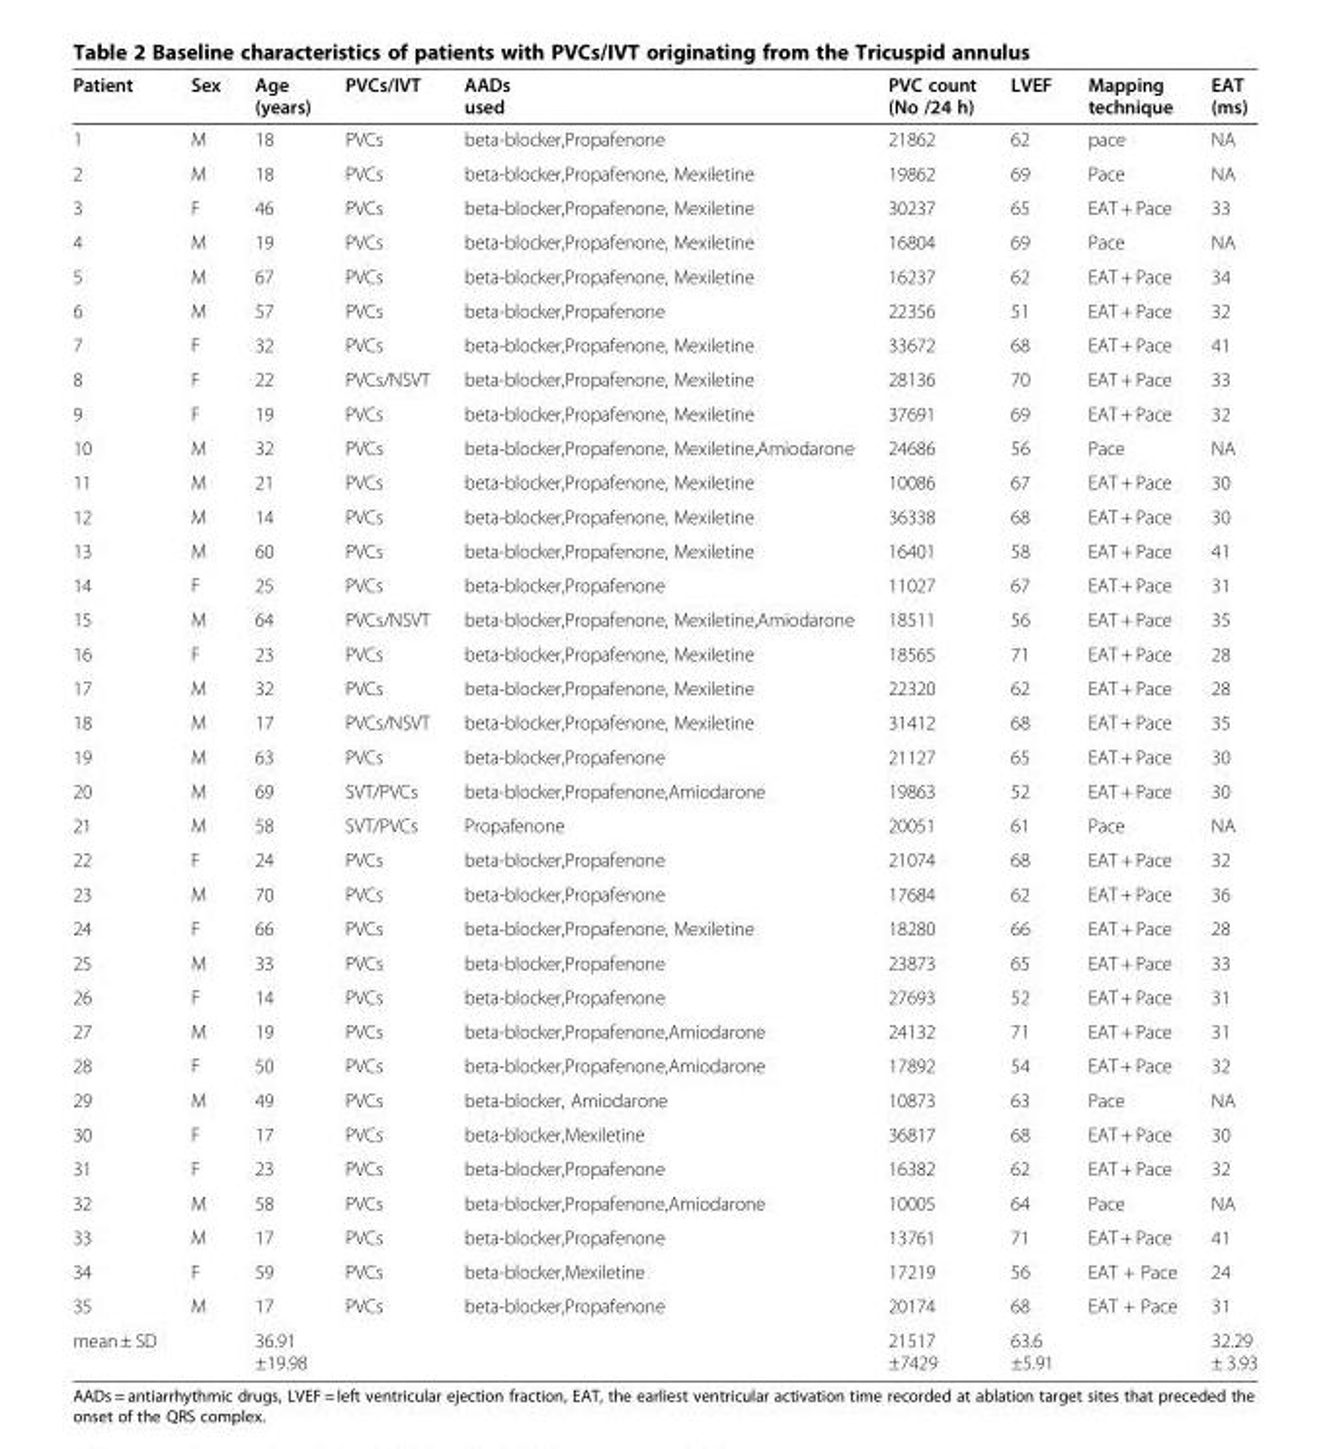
<table><thead><tr><td>Patient</td><td>Sex</td><td>Age (years)</td><td>PVCs/IVT</td><td>AADs used</td><td>PVC count (No /24 h)</td><td>LVEF</td><td>Mapping technique</td><td>EAT (ms)</td></tr></thead><tbody><tr><td>1</td><td>M</td><td>18</td><td>PVCs</td><td>beta-blocker,Propafenone</td><td>21862</td><td>62</td><td>pace</td><td>NA</td></tr><tr><td>2</td><td>M</td><td>18</td><td>PVCs</td><td>beta-blocker,Propafenone, Mexiletine</td><td>19862</td><td>69</td><td>Pace</td><td>NA</td></tr><tr><td>3</td><td>F</td><td>46</td><td>PVCs</td><td>beta-blocker,Propafenone, Mexiletine</td><td>30237</td><td>65</td><td>EAT + Pace</td><td>33</td></tr><tr><td>4</td><td>M</td><td>19</td><td>PVCs</td><td>beta-blocker,Propafenone, Mexiletine</td><td>16804</td><td>69</td><td>Pace</td><td>NA</td></tr><tr><td>5</td><td>M</td><td>67</td><td>PVCs</td><td>beta-blocker,Propafenone, Mexiletine</td><td>16237</td><td>62</td><td>EAT + Pace</td><td>34</td></tr><tr><td>6</td><td>M</td><td>57</td><td>PVCs</td><td>beta-blocker,Propafenone</td><td>22356</td><td>51</td><td>EAT + Pace</td><td>32</td></tr><tr><td>7</td><td>F</td><td>32</td><td>PVCs</td><td>beta-blocker,Propafenone, Mexiletine</td><td>33672</td><td>68</td><td>EAT + Pace</td><td>41</td></tr><tr><td>8</td><td>F</td><td>22</td><td>PVCs/NSVT</td><td>beta-blocker,Propafenone, Mexiletine</td><td>28136</td><td>70</td><td>EAT + Pace</td><td>33</td></tr><tr><td>9</td><td>F</td><td>19</td><td>PVCs</td><td>beta-blocker,Propafenone, Mexiletine</td><td>37691</td><td>69</td><td>EAT + Pace</td><td>32</td></tr><tr><td>10</td><td>M</td><td>32</td><td>PVCs</td><td>beta-blocker,Propafenone, Mexiletine,Amiodarone</td><td>24686</td><td>56</td><td>Pace</td><td>NA</td></tr><tr><td>11</td><td>M</td><td>21</td><td>PVCs</td><td>beta-blocker,Propafenone, Mexiletine</td><td>10086</td><td>67</td><td>EAT + Pace</td><td>30</td></tr><tr><td>12</td><td>M</td><td>14</td><td>PVCs</td><td>beta-blocker,Propafenone, Mexiletine</td><td>36338</td><td>68</td><td>EAT + Pace</td><td>30</td></tr><tr><td>13</td><td>M</td><td>60</td><td>PVCs</td><td>beta-blocker,Propafenone, Mexiletine</td><td>16401</td><td>58</td><td>EAT + Pace</td><td>41</td></tr><tr><td>14</td><td>F</td><td>25</td><td>PVCs</td><td>beta-blocker,Propafenone</td><td>11027</td><td>67</td><td>EAT + Pace</td><td>31</td></tr><tr><td>15</td><td>M</td><td>64</td><td>PVCs/NSVT</td><td>beta-blocker,Propafenone, Mexiletine,Amiodarone</td><td>18511</td><td>56</td><td>EAT + Pace</td><td>35</td></tr><tr><td>16</td><td>F</td><td>23</td><td>PVCs</td><td>beta-blocker,Propafenone, Mexiletine</td><td>18565</td><td>71</td><td>EAT + Pace</td><td>28</td></tr><tr><td>17</td><td>M</td><td>32</td><td>PVCs</td><td>beta-blocker,Propafenone, Mexiletine</td><td>22320</td><td>62</td><td>EAT + Pace</td><td>28</td></tr><tr><td>18</td><td>M</td><td>17</td><td>PVCs/NSVT</td><td>beta-blocker,Propafenone, Mexiletine</td><td>31412</td><td>68</td><td>EAT + Pace</td><td>35</td></tr><tr><td>19</td><td>M</td><td>63</td><td>PVCs</td><td>beta-blocker,Propafenone</td><td>21127</td><td>65</td><td>EAT + Pace</td><td>30</td></tr><tr><td>20</td><td>M</td><td>69</td><td>SVT/PVCs</td><td>beta-blocker,Propafenone,Amiodarone</td><td>19863</td><td>52</td><td>EAT + Pace</td><td>30</td></tr><tr><td>21</td><td>M</td><td>58</td><td>SVT/PVCs</td><td>Propafenone</td><td>20051</td><td>61</td><td>Pace</td><td>NA</td></tr><tr><td>22</td><td>F</td><td>24</td><td>PVCs</td><td>beta-blocker,Propafenone</td><td>21074</td><td>68</td><td>EAT + Pace</td><td>32</td></tr><tr><td>23</td><td>M</td><td>70</td><td>PVCs</td><td>beta-blocker,Propafenone</td><td>17684</td><td>62</td><td>EAT + Pace</td><td>36</td></tr><tr><td>24</td><td>F</td><td>66</td><td>PVCs</td><td>beta-blocker,Propafenone, Mexiletine</td><td>18280</td><td>66</td><td>EAT + Pace</td><td>28</td></tr><tr><td>25</td><td>M</td><td>33</td><td>PVCs</td><td>beta-blocker,Propafenone</td><td>23873</td><td>65</td><td>EAT + Pace</td><td>33</td></tr><tr><td>26</td><td>F</td><td>14</td><td>PVCs</td><td>beta-blocker,Propafenone</td><td>27693</td><td>52</td><td>EAT + Pace</td><td>31</td></tr><tr><td>27</td><td>M</td><td>19</td><td>PVCs</td><td>beta-blocker,Propafenone,Amiodarone</td><td>24132</td><td>71</td><td>EAT + Pace</td><td>31</td></tr><tr><td>28</td><td>F</td><td>50</td><td>PVCs</td><td>beta-blocker,Propafenone,Amiodarone</td><td>17892</td><td>54</td><td>EAT + Pace</td><td>32</td></tr><tr><td>29</td><td>M</td><td>49</td><td>PVCs</td><td>beta-blocker, Amiodarone</td><td>10873</td><td>63</td><td>Pace</td><td>NA</td></tr><tr><td>30</td><td>F</td><td>17</td><td>PVCs</td><td>beta-blocker,Mexiletine</td><td>36817</td><td>68</td><td>EAT + Pace</td><td>30</td></tr><tr><td>31</td><td>F</td><td>23</td><td>PVCs</td><td>beta-blocker,Propafenone</td><td>16382</td><td>62</td><td>EAT + Pace</td><td>32</td></tr><tr><td>32</td><td>M</td><td>58</td><td>PVCs</td><td>beta-blocker,Propafenone,Amiodarone</td><td>10005</td><td>64</td><td>Pace</td><td>NA</td></tr><tr><td>33</td><td>M</td><td>17</td><td>PVCs</td><td>beta-blocker,Propafenone</td><td>13761</td><td>71</td><td>EAT + Pace</td><td>41</td></tr><tr><td>34</td><td>F</td><td>59</td><td>PVCs</td><td>beta-blocker,Mexiletine</td><td>17219</td><td>56</td><td>EAT + Pace</td><td>24</td></tr><tr><td>35</td><td>M</td><td>17</td><td>PVCs</td><td>beta-blocker,Propafenone</td><td>20174</td><td>68</td><td>EAT + Pace</td><td>31</td></tr><tr><td>mean ± SD</td><td></td><td>36.91 ±19.98</td><td></td><td></td><td>21517 ±7429</td><td>63.6 ±5.91</td><td></td><td>32.29 ± 3.93</td></tr></tbody></table>